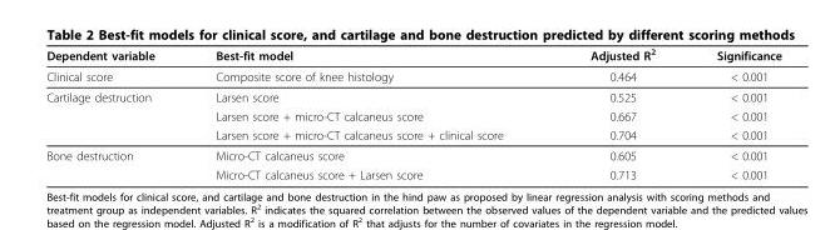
<table><thead><tr><td>Dependent variable</td><td>Best-fit model</td><td>Adjusted R2</td><td>Significance</td></tr></thead><tbody><tr><td>Clinical score</td><td>Composite score of knee histology</td><td>0.464</td><td>&lt; 0.001</td></tr><tr><td rowspan="3">Cartilage destruction</td><td>Larsen score</td><td>0.525</td><td>&lt; 0.001</td></tr><tr><td>Larsen score + micro-CT calcaneus score</td><td>0.667</td><td>&lt; 0.001</td></tr><tr><td>Larsen score + micro-CT calcaneus score + clinical score</td><td>0.704</td><td>&lt; 0.001</td></tr><tr><td rowspan="2">Bone destruction</td><td>Micro-CT calcaneus score</td><td>0.605</td><td>&lt; 0.001</td></tr><tr><td>Micro-CT calcaneus score + Larsen score</td><td>0.713</td><td>&lt; 0.001</td></tr></tbody></table>